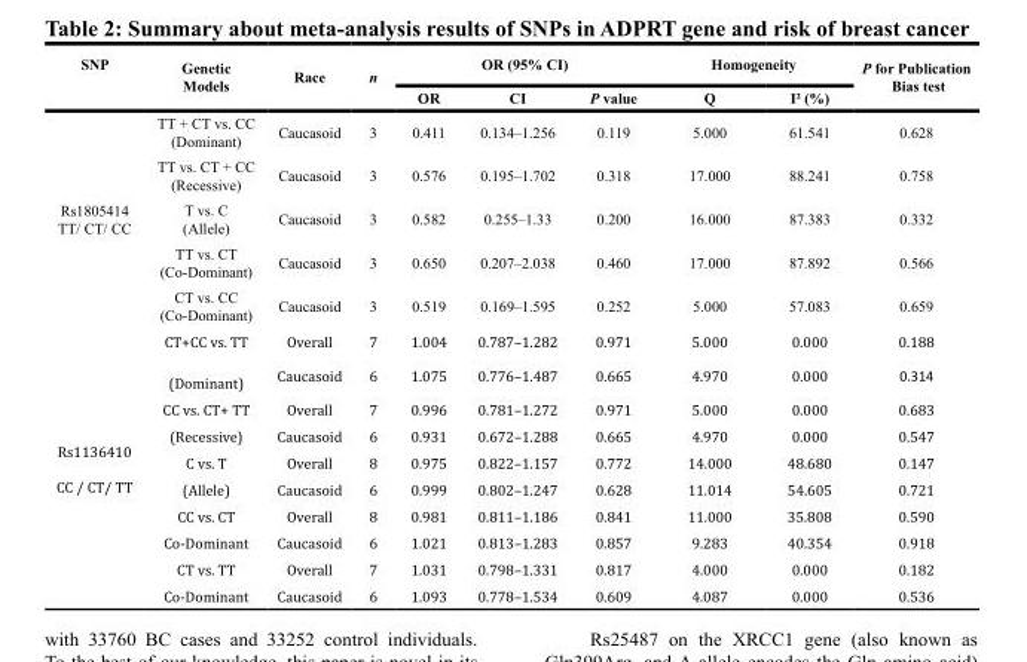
<table><thead><tr><td rowspan="2">SNP</td><td rowspan="2">Genetic Models</td><td rowspan="2">Race</td><td rowspan="2">n</td><td colspan="3">OR (95% CI)</td><td colspan="2">Homogeneity</td><td rowspan="2">P for Publication Bias test</td></tr><tr><td>OR</td><td>CI</td><td>P value</td><td>Q</td><td>I² (%)</td></tr></thead><tbody><tr><td rowspan="5">Rs1805414 TT/ CT/ CC</td><td>TT + CT vs. CC (Dominant)</td><td>Caucasoid</td><td>3</td><td>0.411</td><td>0.134–1.256</td><td>0.119</td><td>5.000</td><td>61.541</td><td>0.628</td></tr><tr><td>TT vs. CT + CC (Recessive)</td><td>Caucasoid</td><td>3</td><td>0.576</td><td>0.195–1.702</td><td>0.318</td><td>17.000</td><td>88.241</td><td>0.758</td></tr><tr><td>T vs. C (Allele)</td><td>Caucasoid</td><td>3</td><td>0.582</td><td>0.255–1.33</td><td>0.200</td><td>16.000</td><td>87.383</td><td>0.332</td></tr><tr><td>TT vs. CT (Co-Dominant)</td><td>Caucasoid</td><td>3</td><td>0.650</td><td>0.207–2.038</td><td>0.460</td><td>17.000</td><td>87.892</td><td>0.566</td></tr><tr><td>CT vs. CC (Co-Dominant)</td><td>Caucasoid</td><td>3</td><td>0.519</td><td>0.169–1.595</td><td>0.252</td><td>5.000</td><td>57.083</td><td>0.659</td></tr><tr><td rowspan="10">Rs1136410 CC / CT/ TT</td><td rowspan="2">CT+CC vs. TT (Dominant)</td><td>Overall</td><td>7</td><td>1.004</td><td>0.787–1.282</td><td>0.971</td><td>5.000</td><td>0.000</td><td>0.188</td></tr><tr><td>Caucasoid</td><td>6</td><td>1.075</td><td>0.776–1.487</td><td>0.665</td><td>4.970</td><td>0.000</td><td>0.314</td></tr><tr><td>CC vs. CT+ TT</td><td>Overall</td><td>7</td><td>0.996</td><td>0.781–1.272</td><td>0.971</td><td>5.000</td><td>0.000</td><td>0.683</td></tr><tr><td>(Recessive)</td><td>Caucasoid</td><td>6</td><td>0.931</td><td>0.672–1.288</td><td>0.665</td><td>4.970</td><td>0.000</td><td>0.547</td></tr><tr><td>C vs. T</td><td>Overall</td><td>8</td><td>0.975</td><td>0.822–1.157</td><td>0.772</td><td>14.000</td><td>48.680</td><td>0.147</td></tr><tr><td>(Allele)</td><td>Caucasoid</td><td>6</td><td>0.999</td><td>0.802–1.247</td><td>0.628</td><td>11.014</td><td>54.605</td><td>0.721</td></tr><tr><td>CC vs. CT</td><td>Overall</td><td>8</td><td>0.981</td><td>0.811–1.186</td><td>0.841</td><td>11.000</td><td>35.808</td><td>0.590</td></tr><tr><td>Co-Dominant</td><td>Caucasoid</td><td>6</td><td>1.021</td><td>0.813–1.283</td><td>0.857</td><td>9.283</td><td>40.354</td><td>0.918</td></tr><tr><td>CT vs. TT</td><td>Overall</td><td>7</td><td>1.031</td><td>0.798–1.331</td><td>0.817</td><td>4.000</td><td>0.000</td><td>0.182</td></tr><tr><td>Co-Dominant</td><td>Caucasoid</td><td>6</td><td>1.093</td><td>0.778–1.534</td><td>0.609</td><td>4.087</td><td>0.000</td><td>0.536</td></tr></tbody></table>